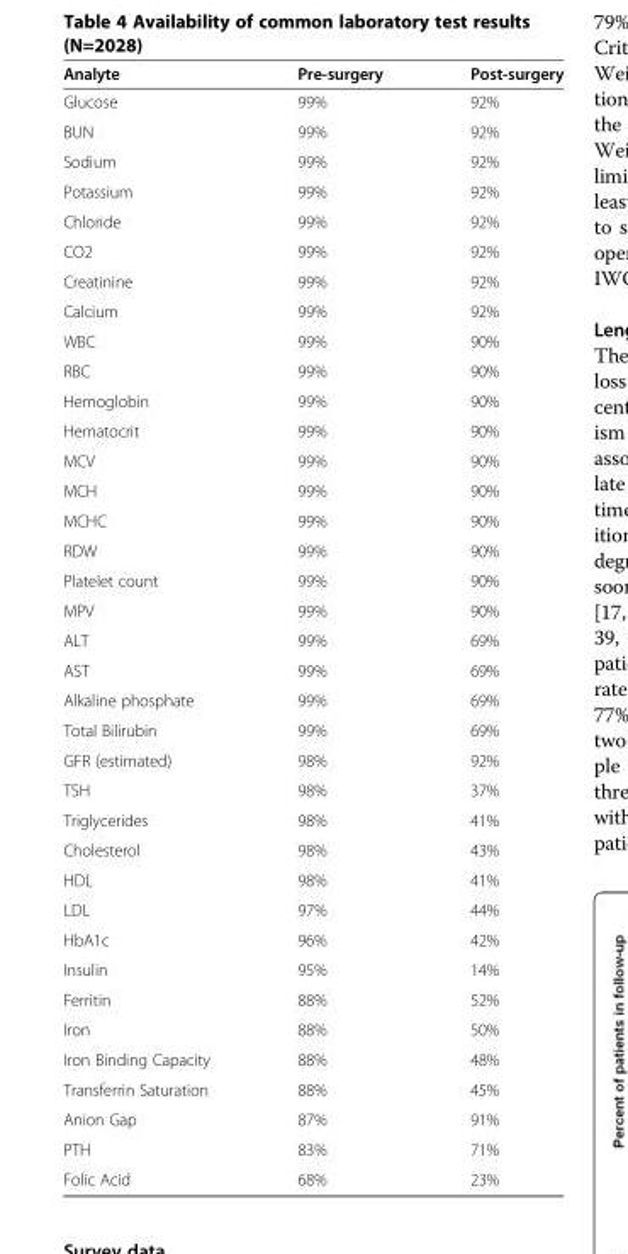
<table><thead><tr><td>Analyte</td><td>Pre-surgery</td><td>Post-surgery</td></tr></thead><tbody><tr><td>Glucose</td><td>99%</td><td>92%</td></tr><tr><td>BUN</td><td>99%</td><td>92%</td></tr><tr><td>Sodium</td><td>99%</td><td>92%</td></tr><tr><td>Potassium</td><td>99%</td><td>92%</td></tr><tr><td>Chloride</td><td>99%</td><td>92%</td></tr><tr><td>CO2</td><td>99%</td><td>92%</td></tr><tr><td>Creatinine</td><td>99%</td><td>92%</td></tr><tr><td>Calcium</td><td>99%</td><td>92%</td></tr><tr><td>WBC</td><td>99%</td><td>90%</td></tr><tr><td>RBC</td><td>99%</td><td>90%</td></tr><tr><td>Hemoglobin</td><td>99%</td><td>90%</td></tr><tr><td>Hematocrit</td><td>99%</td><td>90%</td></tr><tr><td>MCV</td><td>99%</td><td>90%</td></tr><tr><td>MCH</td><td>99%</td><td>90%</td></tr><tr><td>MCHC</td><td>99%</td><td>90%</td></tr><tr><td>RDW</td><td>99%</td><td>90%</td></tr><tr><td>Platelet count</td><td>99%</td><td>90%</td></tr><tr><td>MPV</td><td>99%</td><td>90%</td></tr><tr><td>ALT</td><td>99%</td><td>69%</td></tr><tr><td>AST</td><td>99%</td><td>69%</td></tr><tr><td>Alkaline phosphate</td><td>99%</td><td>69%</td></tr><tr><td>Total Bilirubin</td><td>99%</td><td>69%</td></tr><tr><td>GFR (estimated)</td><td>98%</td><td>92%</td></tr><tr><td>TSH</td><td>98%</td><td>37%</td></tr><tr><td>Triglycerides</td><td>98%</td><td>41%</td></tr><tr><td>Cholesterol</td><td>98%</td><td>43%</td></tr><tr><td>HDL</td><td>98%</td><td>41%</td></tr><tr><td>LDL</td><td>97%</td><td>44%</td></tr><tr><td>HbA1c</td><td>96%</td><td>42%</td></tr><tr><td>Insulin</td><td>95%</td><td>14%</td></tr><tr><td>Ferritin</td><td>88%</td><td>52%</td></tr><tr><td>Iron</td><td>88%</td><td>50%</td></tr><tr><td>Iron Binding Capacity</td><td>88%</td><td>48%</td></tr><tr><td>Transferrin Saturation</td><td>88%</td><td>45%</td></tr><tr><td>Anion Gap</td><td>87%</td><td>91%</td></tr><tr><td>PTH</td><td>83%</td><td>71%</td></tr><tr><td>Folic Acid</td><td>68%</td><td>23%</td></tr></tbody></table>